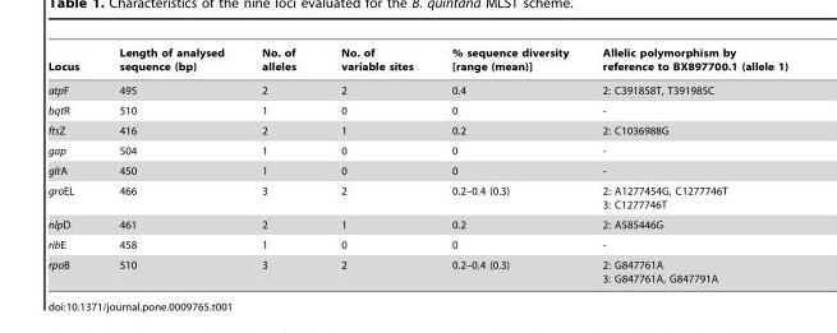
<table><thead><tr><td>Locus</td><td>Length of analysed sequence (bp)</td><td>No. of alleles</td><td>No. of variable sites</td><td>% sequence diversity [range (mean)]</td><td>Allelic polymorphism by reference to BX897700.1 (allele 1)</td></tr></thead><tbody><tr><td>atpF</td><td>495</td><td>2</td><td>2</td><td>0.4</td><td>2: C391858T, T391985C</td></tr><tr><td>bqtR</td><td>510</td><td>1</td><td>0</td><td>0</td><td>-</td></tr><tr><td>ftsZ</td><td>416</td><td>2</td><td>1</td><td>0.2</td><td>2: C1036988G</td></tr><tr><td>gap</td><td>504</td><td>1</td><td>0</td><td>0</td><td>-</td></tr><tr><td>gltA</td><td>450</td><td>1</td><td>0</td><td>0</td><td>-</td></tr><tr><td>groEL</td><td>466</td><td>3</td><td>2</td><td>0.2–0.4 (0.3)</td><td>2: A1277454G, C1277746T 3: C1277746T</td></tr><tr><td>nlpD</td><td>461</td><td>2</td><td>1</td><td>0.2</td><td>2: A585446G</td></tr><tr><td>ribE</td><td>458</td><td>1</td><td>0</td><td>0</td><td>-</td></tr><tr><td>rpoB</td><td>510</td><td>3</td><td>2</td><td>0.2–0.4 (0.3)</td><td>2: G847761A 3: G847761A, G847791A</td></tr></tbody></table>